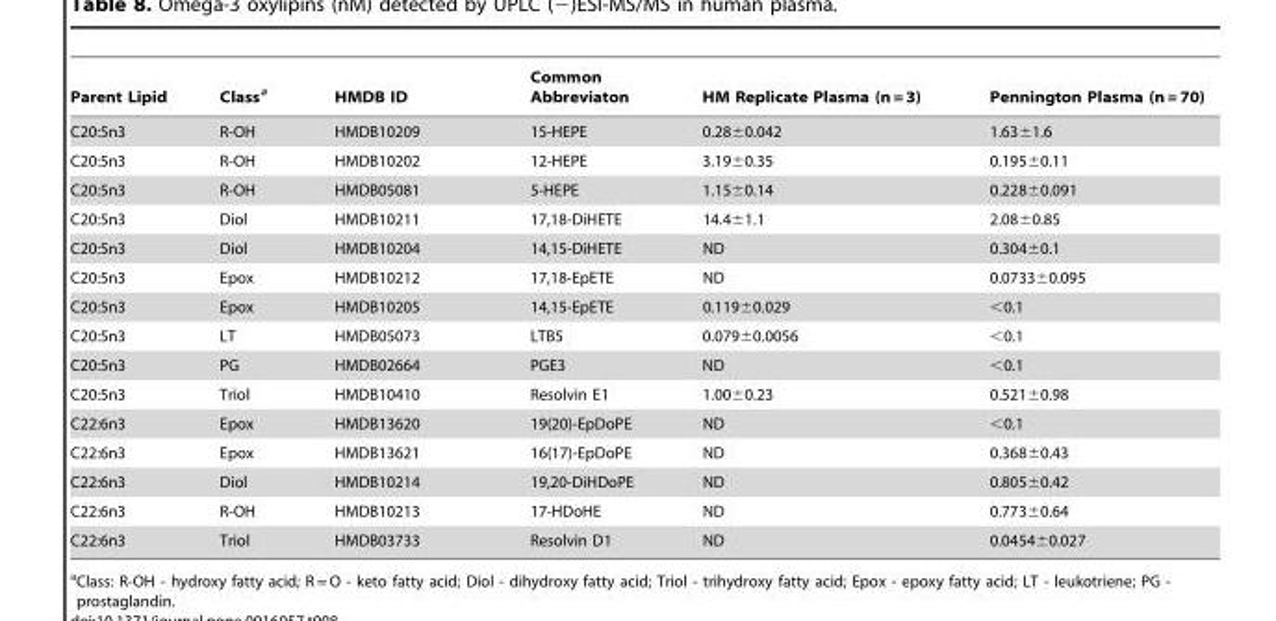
<table><thead><tr><td>Parent Lipid</td><td>Class<sup>a</sup></td><td>HMDB ID</td><td>Common Abbreviaton</td><td>HM Replicate Plasma (n = 3)</td><td>Pennington Plasma (n = 70)</td></tr></thead><tbody><tr><td>C20:5n3</td><td>R-OH</td><td>HMDB10209</td><td>15-HEPE</td><td>0.28±0.042</td><td>1.63±1.6</td></tr><tr><td>C20:5n3</td><td>R-OH</td><td>HMDB10202</td><td>12-HEPE</td><td>3.19±0.35</td><td>0.195±0.11</td></tr><tr><td>C20:5n3</td><td>R-OH</td><td>HMDB05081</td><td>5-HEPE</td><td>1.15±0.14</td><td>0.228±0.091</td></tr><tr><td>C20:5n3</td><td>Diol</td><td>HMDB10211</td><td>17,18-DiHETE</td><td>14.4±1.1</td><td>2.08±0.85</td></tr><tr><td>C20:5n3</td><td>Diol</td><td>HMDB10204</td><td>14,15-DiHETE</td><td>ND</td><td>0.304±0.1</td></tr><tr><td>C20:5n3</td><td>Epox</td><td>HMDB10212</td><td>17,18-EpETE</td><td>ND</td><td>0.0733±0.095</td></tr><tr><td>C20:5n3</td><td>Epox</td><td>HMDB10205</td><td>14,15-EpETE</td><td>0.119±0.029</td><td>&lt;0.1</td></tr><tr><td>C20:5n3</td><td>LT</td><td>HMDB05073</td><td>LTB5</td><td>0.079±0.0056</td><td>&lt;0.1</td></tr><tr><td>C20:5n3</td><td>PG</td><td>HMDB02664</td><td>PGE3</td><td>ND</td><td>&lt;0.1</td></tr><tr><td>C20:5n3</td><td>Triol</td><td>HMDB10410</td><td>Resolvin E1</td><td>1.00±0.23</td><td>0.521±0.98</td></tr><tr><td>C22:6n3</td><td>Epox</td><td>HMDB13620</td><td>19(20)-EpDoPE</td><td>ND</td><td>&lt;0.1</td></tr><tr><td>C22:6n3</td><td>Epox</td><td>HMDB13621</td><td>16(17)-EpDoPE</td><td>ND</td><td>0.368±0.43</td></tr><tr><td>C22:6n3</td><td>Diol</td><td>HMDB10214</td><td>19,20-DiHDoPE</td><td>ND</td><td>0.805±0.42</td></tr><tr><td>C22:6n3</td><td>R-OH</td><td>HMDB10213</td><td>17-HDoHE</td><td>ND</td><td>0.773±0.64</td></tr><tr><td>C22:6n3</td><td>Triol</td><td>HMDB03733</td><td>Resolvin D1</td><td>ND</td><td>0.0454±0.027</td></tr></tbody></table>